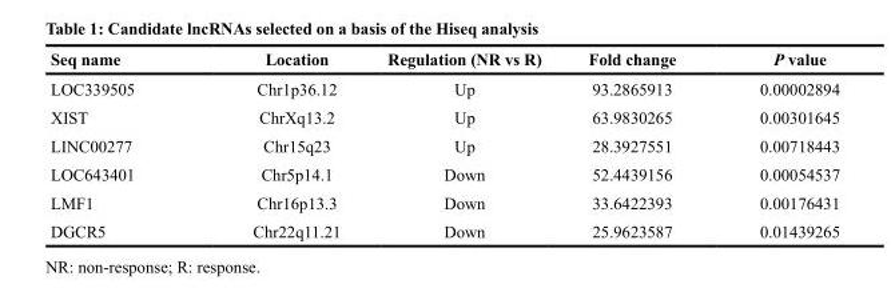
<table><thead><tr><td>Seq name</td><td>Location</td><td>Regulation (NR vs R)</td><td>Fold change</td><td>P value</td></tr></thead><tbody><tr><td>LOC339505</td><td>Chr1p36.12</td><td>Up</td><td>93.2865913</td><td>0.00002894</td></tr><tr><td>XIST</td><td>ChrXq13.2</td><td>Up</td><td>63.9830265</td><td>0.00301645</td></tr><tr><td>LINC00277</td><td>Chr15q23</td><td>Up</td><td>28.3927551</td><td>0.00718443</td></tr><tr><td>LOC643401</td><td>Chr5p14.1</td><td>Down</td><td>52.4439156</td><td>0.00054537</td></tr><tr><td>LMF1</td><td>Chr16p13.3</td><td>Down</td><td>33.6422393</td><td>0.00176431</td></tr><tr><td>DGCR5</td><td>Chr22q11.21</td><td>Down</td><td>25.9623587</td><td>0.01439265</td></tr></tbody></table>